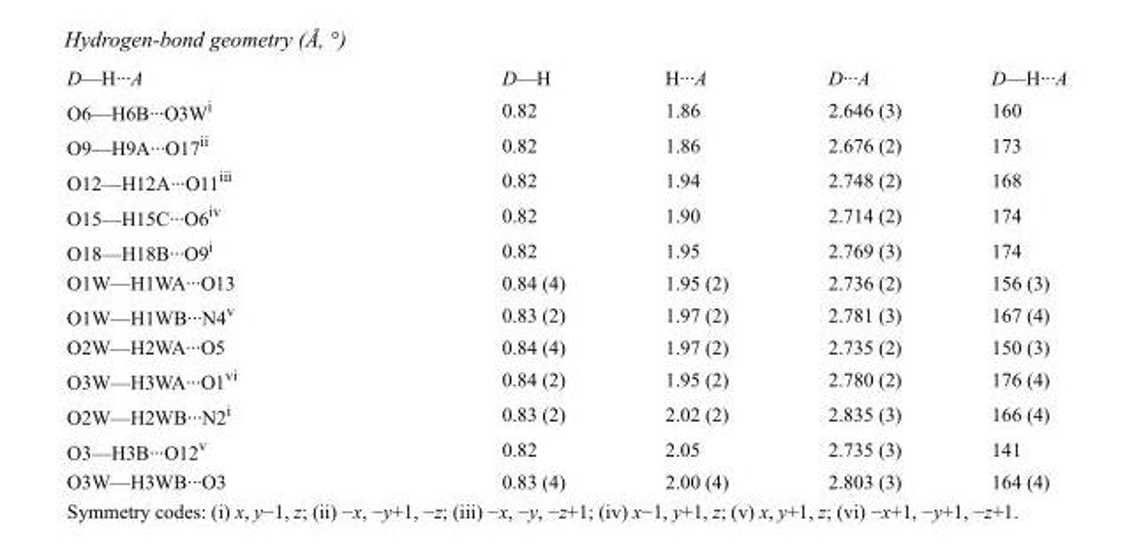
<table><tbody><tr><td>D—H···A</td><td>D—H</td><td>H···A</td><td>D···A</td><td>D—H···A</td></tr><tr><td>O6—H6B···O3W<sup>i</sup></td><td>0.82</td><td>1.86</td><td>2.646 (3)</td><td>160</td></tr><tr><td>O9—H9A···O17<sup>ii</sup></td><td>0.82</td><td>1.86</td><td>2.676 (2)</td><td>173</td></tr><tr><td>O12—H12A···O11<sup>iii</sup></td><td>0.82</td><td>1.94</td><td>2.748 (2)</td><td>168</td></tr><tr><td>O15—H15C···O6<sup>iv</sup></td><td>0.82</td><td>1.90</td><td>2.714 (2)</td><td>174</td></tr><tr><td>O18—H18B···O9<sup>i</sup></td><td>0.82</td><td>1.95</td><td>2.769 (3)</td><td>174</td></tr><tr><td>O1W—H1WA···O13</td><td>0.84 (4)</td><td>1.95 (2)</td><td>2.736 (2)</td><td>156 (3)</td></tr><tr><td>O1W—H1WB···N4<sup>v</sup></td><td>0.83 (2)</td><td>1.97 (2)</td><td>2.781 (3)</td><td>167 (4)</td></tr><tr><td>O2W—H2WA···O5</td><td>0.84 (4)</td><td>1.97 (2)</td><td>2.735 (2)</td><td>150 (3)</td></tr><tr><td>O3W—H3WA···O1<sup>vi</sup></td><td>0.84 (2)</td><td>1.95 (2)</td><td>2.780 (2)</td><td>176 (4)</td></tr><tr><td>O2W—H2WB···N2<sup>i</sup></td><td>0.83 (2)</td><td>2.02 (2)</td><td>2.835 (3)</td><td>166 (4)</td></tr><tr><td>O3—H3B···O12<sup>v</sup></td><td>0.82</td><td>2.05</td><td>2.735 (3)</td><td>141</td></tr><tr><td>O3W—H3WB···O3</td><td>0.83 (4)</td><td>2.00 (4)</td><td>2.803 (3)</td><td>164 (4)</td></tr></tbody></table>